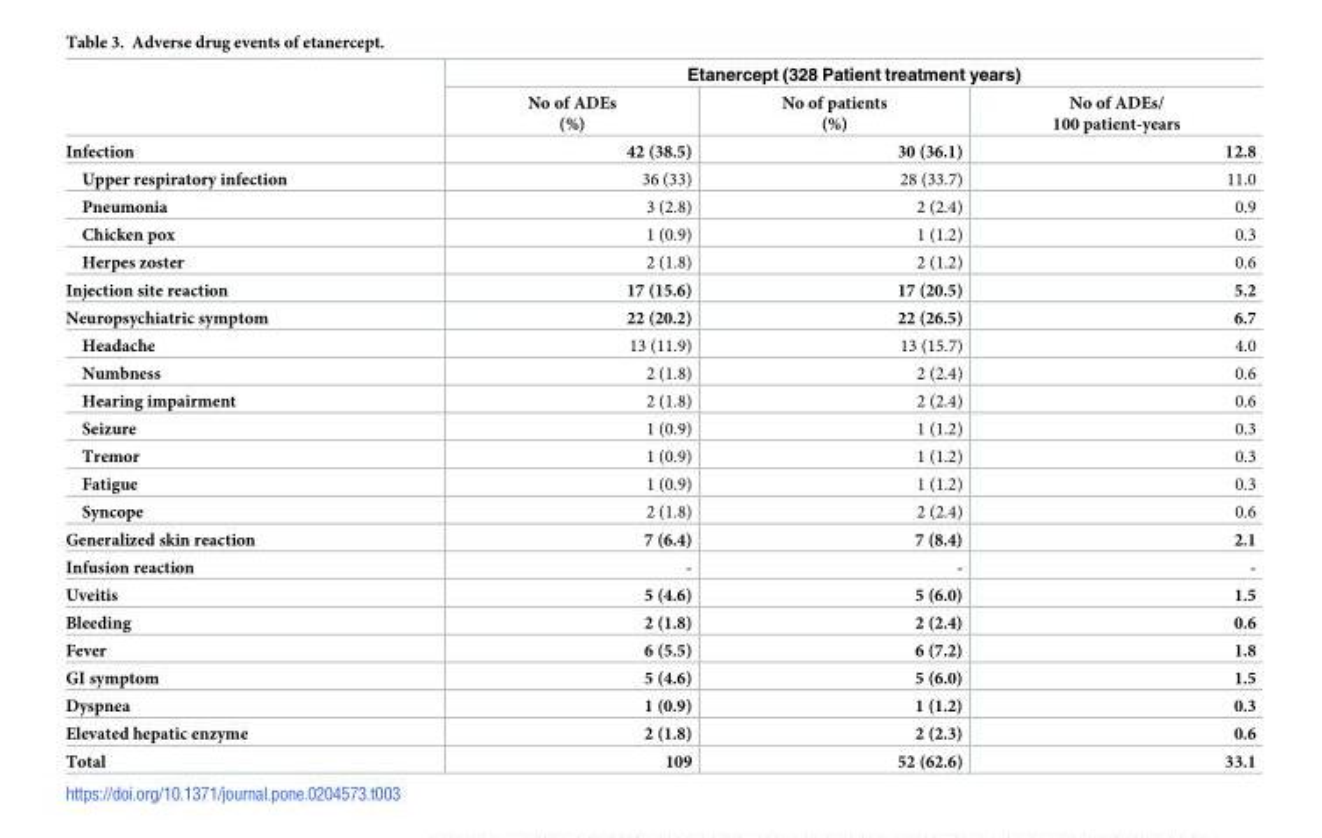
<table><thead><tr><td rowspan="2"></td><td colspan="3">Etanercept (328 Patient treatment years)</td></tr><tr><td>No of ADEs (%)</td><td>No of patients (%)</td><td>No of ADEs/ 100 patient-years</td></tr></thead><tbody><tr><td>Infection</td><td>42 (38.5)</td><td>30 (36.1)</td><td>12.8</td></tr><tr><td>Upper respiratory infection</td><td>36 (33)</td><td>28 (33.7)</td><td>11.0</td></tr><tr><td>Pneumonia</td><td>3 (2.8)</td><td>2 (2.4)</td><td>0.9</td></tr><tr><td>Chicken pox</td><td>1 (0.9)</td><td>1 (1.2)</td><td>0.3</td></tr><tr><td>Herpes zoster</td><td>2 (1.8)</td><td>2 (1.2)</td><td>0.6</td></tr><tr><td>Injection site reaction</td><td>17 (15.6)</td><td>17 (20.5)</td><td>5.2</td></tr><tr><td>Neuropsychiatric symptom</td><td>22 (20.2)</td><td>22 (26.5)</td><td>6.7</td></tr><tr><td>Headache</td><td>13 (11.9)</td><td>13 (15.7)</td><td>4.0</td></tr><tr><td>Numbness</td><td>2 (1.8)</td><td>2 (2.4)</td><td>0.6</td></tr><tr><td>Hearing impairment</td><td>2 (1.8)</td><td>2 (2.4)</td><td>0.6</td></tr><tr><td>Seizure</td><td>1 (0.9)</td><td>1 (1.2)</td><td>0.3</td></tr><tr><td>Tremor</td><td>1 (0.9)</td><td>1 (1.2)</td><td>0.3</td></tr><tr><td>Fatigue</td><td>1 (0.9)</td><td>1 (1.2)</td><td>0.3</td></tr><tr><td>Syncope</td><td>2 (1.8)</td><td>2 (2.4)</td><td>0.6</td></tr><tr><td>Generalized skin reaction</td><td>7 (6.4)</td><td>7 (8.4)</td><td>2.1</td></tr><tr><td>Infusion reaction</td><td>-</td><td>-</td><td>-</td></tr><tr><td>Uveitis</td><td>5 (4.6)</td><td>5 (6.0)</td><td>1.5</td></tr><tr><td>Bleeding</td><td>2 (1.8)</td><td>2 (2.4)</td><td>0.6</td></tr><tr><td>Fever</td><td>6 (5.5)</td><td>6 (7.2)</td><td>1.8</td></tr><tr><td>GI symptom</td><td>5 (4.6)</td><td>5 (6.0)</td><td>1.5</td></tr><tr><td>Dyspnea</td><td>1 (0.9)</td><td>1 (1.2)</td><td>0.3</td></tr><tr><td>Elevated hepatic enzyme</td><td>2 (1.8)</td><td>2 (2.3)</td><td>0.6</td></tr><tr><td>Total</td><td>109</td><td>52 (62.6)</td><td>33.1</td></tr></tbody></table>